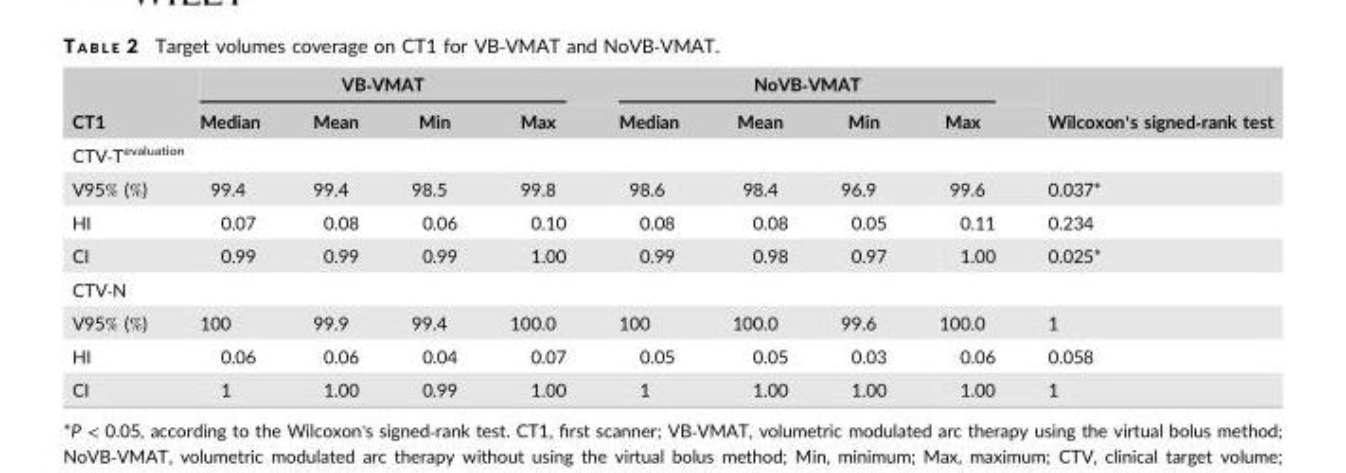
<table><thead><tr><td rowspan="2">CT1</td><td colspan="4">VB‐VMAT</td><td colspan="4">NoVB‐VMAT</td><td rowspan="2">Wilcoxon&#x27;s signed‐rank test</td></tr><tr><td>Median</td><td>Mean</td><td>Min</td><td>Max</td><td>Median</td><td>Mean</td><td>Min</td><td>Max</td></tr></thead><tbody><tr><td colspan="10">CTV‐T<sup>evaluation</sup></td></tr><tr><td>V95% (%)</td><td>99.4</td><td>99.4</td><td>98.5</td><td>99.8</td><td>98.6</td><td>98.4</td><td>96.9</td><td>99.6</td><td>0.037*</td></tr><tr><td>HI</td><td>0.07</td><td>0.08</td><td>0.06</td><td>0.10</td><td>0.08</td><td>0.08</td><td>0.05</td><td>0.11</td><td>0.234</td></tr><tr><td>CI</td><td>0.99</td><td>0.99</td><td>0.99</td><td>1.00</td><td>0.99</td><td>0.98</td><td>0.97</td><td>1.00</td><td>0.025*</td></tr><tr><td colspan="10">CTV‐N</td></tr><tr><td>V95% (%)</td><td>100</td><td>99.9</td><td>99.4</td><td>100.0</td><td>100</td><td>100.0</td><td>99.6</td><td>100.0</td><td>1</td></tr><tr><td>HI</td><td>0.06</td><td>0.06</td><td>0.04</td><td>0.07</td><td>0.05</td><td>0.05</td><td>0.03</td><td>0.06</td><td>0.058</td></tr><tr><td>CI</td><td>1</td><td>1.00</td><td>0.99</td><td>1.00</td><td>1</td><td>1.00</td><td>1.00</td><td>1.00</td><td>1</td></tr></tbody></table>